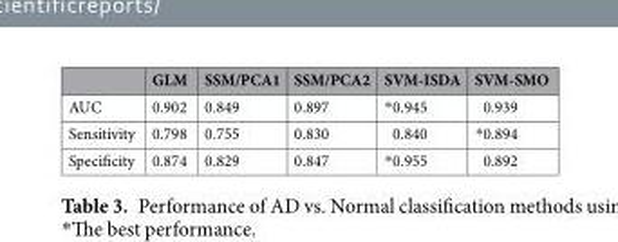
<table><thead><tr><td></td><td>GLM</td><td>SSM/PCA1</td><td>SSM/PCA2</td><td>SVM-ISDA</td><td>SVM-SMO</td></tr></thead><tbody><tr><td>AUC</td><td>0.902</td><td>0.849</td><td>0.897</td><td>*0.945</td><td>0.939</td></tr><tr><td>Sensitivity</td><td>0.798</td><td>0.755</td><td>0.830</td><td>0.840</td><td>*0.894</td></tr><tr><td>Specificity</td><td>0.874</td><td>0.829</td><td>0.847</td><td>*0.955</td><td>0.892</td></tr></tbody></table>